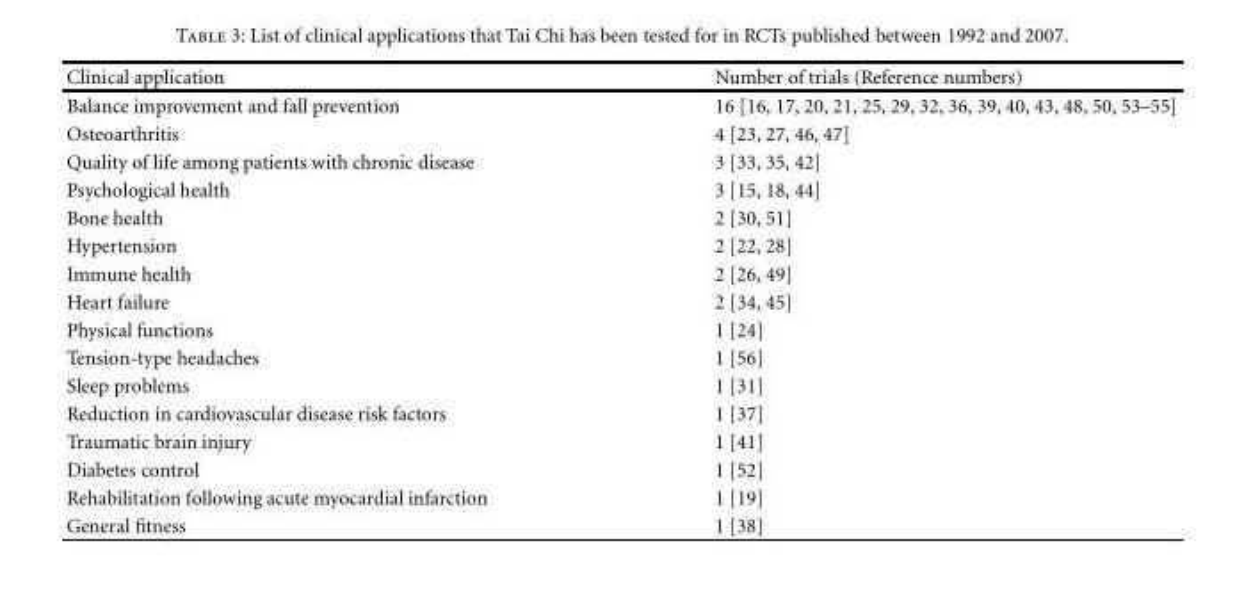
<table><thead><tr><td>Clinical application</td><td>Number of trials (Reference numbers)</td></tr></thead><tbody><tr><td>Balance improvement and fall prevention</td><td>16 [16, 17, 20, 21, 25, 29, 32, 36, 39, 40, 43, 48, 50, 53–55]</td></tr><tr><td>Osteoarthritis</td><td>4 [23, 27, 46, 47]</td></tr><tr><td>Quality of life among patients with chronic disease</td><td>3 [33, 35, 42]</td></tr><tr><td>Psychological health</td><td>3 [15, 18, 44]</td></tr><tr><td>Bone health</td><td>2 [30, 51]</td></tr><tr><td>Hypertension</td><td>2 [22, 28]</td></tr><tr><td>Immune health</td><td>2 [26, 49]</td></tr><tr><td>Heart failure</td><td>2 [34, 45]</td></tr><tr><td>Physical functions</td><td>1 [24]</td></tr><tr><td>Tension-type headaches</td><td>1 [56]</td></tr><tr><td>Sleep problems</td><td>1 [31]</td></tr><tr><td>Reduction in cardiovascular disease risk factors</td><td>1 [37]</td></tr><tr><td>Traumatic brain injury</td><td>1 [41]</td></tr><tr><td>Diabetes control</td><td>1 [52]</td></tr><tr><td>Rehabilitation following acute myocardial infarction</td><td>1 [19]</td></tr><tr><td>General fitness</td><td>1 [38]</td></tr></tbody></table>